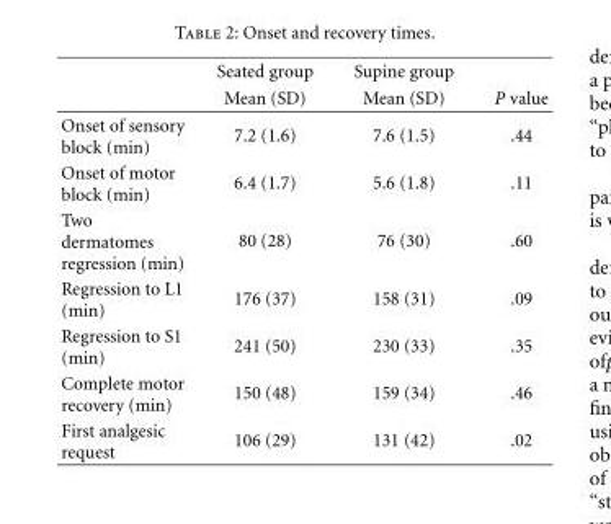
<table><thead><tr><td rowspan="2"></td><td rowspan="2">Seated group Mean (SD)</td><td rowspan="2">Supine group Mean (SD)</td><td rowspan="2">P value</td></tr><tr></tr></thead><tbody><tr><td>Onset of sensory block (min)</td><td>7.2 (1.6)</td><td>7.6 (1.5)</td><td>.44</td></tr><tr><td>Onset of motor block (min)</td><td>6.4 (1.7)</td><td>5.6 (1.8)</td><td>.11</td></tr><tr><td>Two dermatomes regression (min)</td><td>80 (28)</td><td>76 (30)</td><td>.60</td></tr><tr><td>Regression to L1 (min)</td><td>176 (37)</td><td>158 (31)</td><td>.09</td></tr><tr><td>Regression to S1 (min)</td><td>241 (50)</td><td>230 (33)</td><td>.35</td></tr><tr><td>Complete motor recovery (min)</td><td>150 (48)</td><td>159 (34)</td><td>.46</td></tr><tr><td>First analgesic request</td><td>106 (29)</td><td>131 (42)</td><td>.02</td></tr></tbody></table>